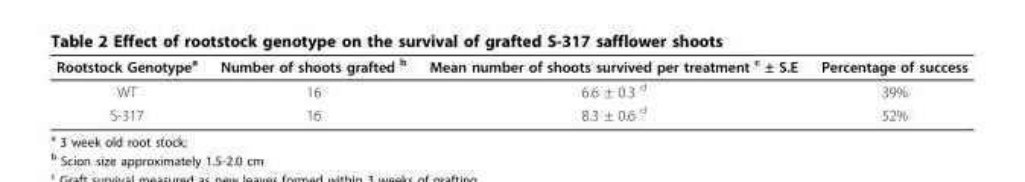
<table><thead><tr><td>Rootstock Genotype<sup>a</sup></td><td>Number of shoots grafted <sup>b</sup></td><td>Mean number of shoots survived per treatment <sup>c</sup> ± S.E</td><td>Percentage of success</td></tr></thead><tbody><tr><td>WT</td><td>16</td><td>6.6 ± 0.3 <sup>d</sup></td><td>39%</td></tr><tr><td>S-317</td><td>16</td><td>8.3 ± 0.6 <sup>d</sup></td><td>52%</td></tr></tbody></table>